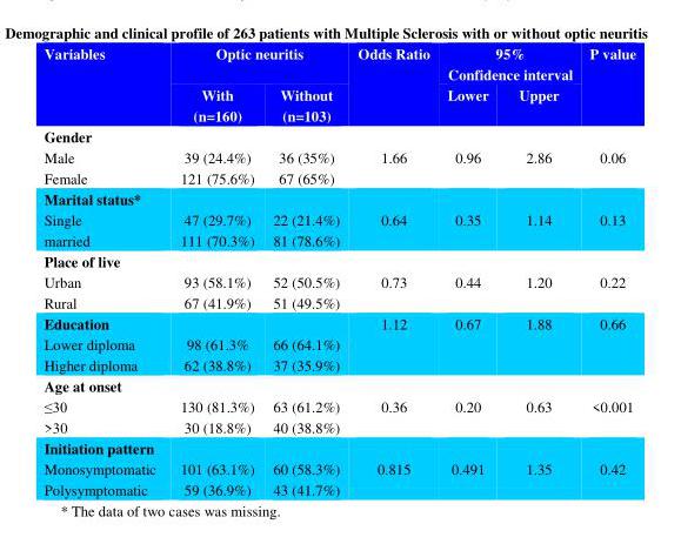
<table><thead><tr><td rowspan="2">Variables</td><td colspan="2">Optic neuritis</td><td rowspan="2">Odds Ratio</td><td colspan="2">95% Confidence interval</td><td rowspan="2">P value</td></tr><tr><td>With (n=160)</td><td>Without (n=103)</td><td>Lower</td><td>Upper</td></tr></thead><tbody><tr><td>Gender Male Female</td><td>39 (24.4%) 121 (75.6%)</td><td>36 (35%) 67 (65%)</td><td>1.66</td><td>0.96</td><td>2.86</td><td>0.06</td></tr><tr><td>Marital status* Single married</td><td>47 (29.7%) 111 (70.3%)</td><td>22 (21.4%) 81 (78.6%)</td><td>0.64</td><td>0.35</td><td>1.14</td><td>0.13</td></tr><tr><td>Place of live Urban Rural</td><td>93 (58.1%) 67 (41.9%)</td><td>52 (50.5%) 51 (49.5%)</td><td>0.73</td><td>0.44</td><td>1.20</td><td>0.22</td></tr><tr><td>Education Lower diploma Higher diploma</td><td>98 (61.3% 62 (38.8%)</td><td>66 (64.1%) 37 (35.9%)</td><td>1.12</td><td>0.67</td><td>1.88</td><td>0.66</td></tr><tr><td>Age at onset ≤30 &gt;30</td><td>130 (81.3%) 30 (18.8%)</td><td>63 (61.2%) 40 (38.8%)</td><td>0.36</td><td>0.20</td><td>0.63</td><td>&lt;0.001</td></tr><tr><td>Initiation pattern Monosymptomatic Polysymptomatic</td><td>101 (63.1%) 59 (36.9%)</td><td>60 (58.3%) 43 (41.7%)</td><td>0.815</td><td>0.491</td><td>1.35</td><td>0.42</td></tr></tbody></table>